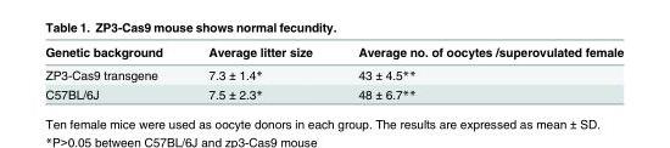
<table><thead><tr><td>Genetic background</td><td>Average litter size</td><td>Average no. of oocytes /superovulated female</td></tr></thead><tbody><tr><td>ZP3-Cas9 transgene</td><td>7.3 ± 1.4*</td><td>43 ± 4.5**</td></tr><tr><td>C57BL/6J</td><td>7.5 ± 2.3*</td><td>48 ± 6.7**</td></tr></tbody></table>